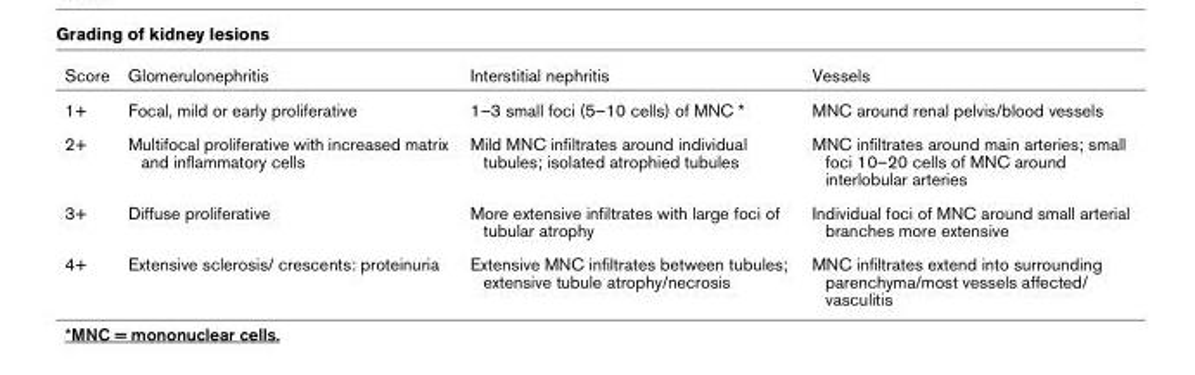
<table><thead><tr><td>Score</td><td>Glomerulonephritis</td><td>Interstitial nephritis</td><td>Vessels</td></tr></thead><tbody><tr><td>1+</td><td>Focal, mild or early proliferative</td><td>1–3 small foci (5–10 cells) of MNC *</td><td>MNC around renal pelvis/blood vessels</td></tr><tr><td>2+</td><td>Multifocal proliferative with increased matrix and inflammatory cells</td><td>Mild MNC infiltrates around individual tubules; isolated atrophied tubules</td><td>MNC infiltrates around main arteries; small foci 10–20 cells of MNC around interlobular arteries</td></tr><tr><td>3+</td><td>Diffuse proliferative</td><td>More extensive infiltrates with large foci of tubular atrophy</td><td>Individual foci of MNC around small arterial branches more extensive</td></tr><tr><td>4+</td><td>Extensive sclerosis/ crescents: proteinuria</td><td>Extensive MNC infiltrates between tubules; extensive tubule atrophy/necrosis</td><td>MNC infiltrates extend into surrounding parenchyma/most vessels affected/ vasculitis</td></tr></tbody></table>